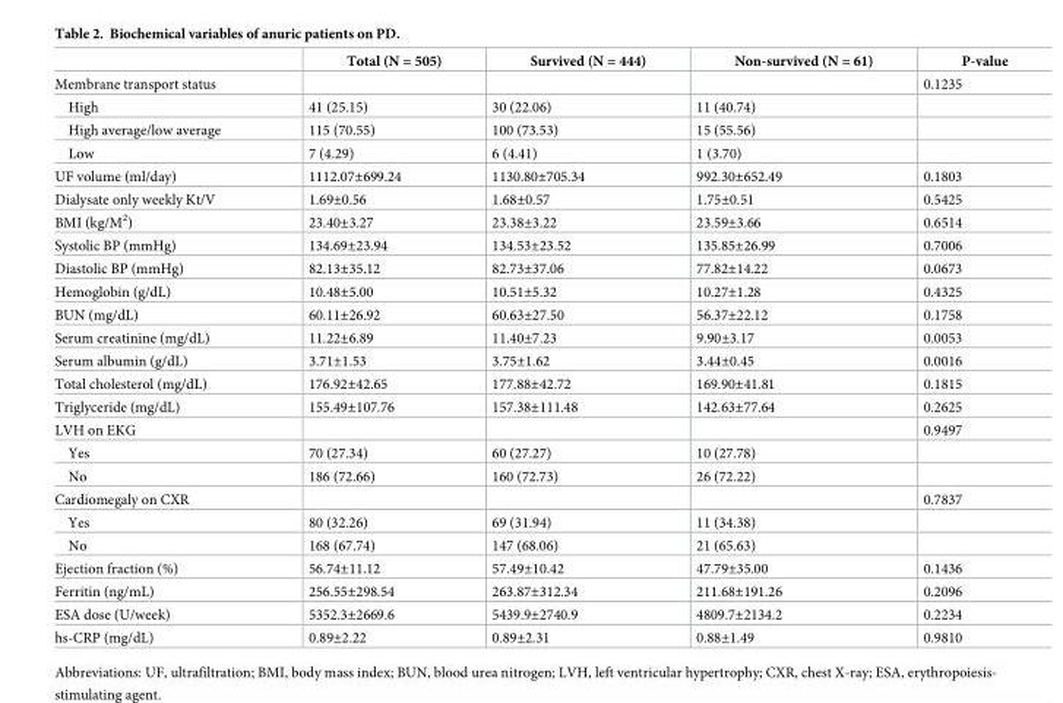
<table><thead><tr><td></td><td>Total (N = 505)</td><td>Survived (N = 444)</td><td>Non-survived (N = 61)</td><td>P-value</td></tr></thead><tbody><tr><td>Membrane transport status</td><td></td><td></td><td></td><td>0.1235</td></tr><tr><td>High</td><td>41 (25.15)</td><td>30 (22.06)</td><td>11 (40.74)</td><td></td></tr><tr><td>High average/low average</td><td>115 (70.55)</td><td>100 (73.53)</td><td>15 (55.56)</td><td></td></tr><tr><td>Low</td><td>7 (4.29)</td><td>6 (4.41)</td><td>1 (3.70)</td><td></td></tr><tr><td>UF volume (ml/day)</td><td>1112.07±699.24</td><td>1130.80±705.34</td><td>992.30±652.49</td><td>0.1803</td></tr><tr><td>Dialysate only weekly Kt/V</td><td>1.69±0.56</td><td>1.68±0.57</td><td>1.75±0.51</td><td>0.5425</td></tr><tr><td>BMI (kg/M<sup>2</sup>)</td><td>23.40±3.27</td><td>23.38±3.22</td><td>23.59±3.66</td><td>0.6514</td></tr><tr><td>Systolic BP (mmHg)</td><td>134.69±23.94</td><td>134.53±23.52</td><td>135.85±26.99</td><td>0.7006</td></tr><tr><td>Diastolic BP (mmHg)</td><td>82.13±35.12</td><td>82.73±37.06</td><td>77.82±14.22</td><td>0.0673</td></tr><tr><td>Hemoglobin (g/dL)</td><td>10.48±5.00</td><td>10.51±5.32</td><td>10.27±1.28</td><td>0.4325</td></tr><tr><td>BUN (mg/dL)</td><td>60.11±26.92</td><td>60.63±27.50</td><td>56.37±22.12</td><td>0.1758</td></tr><tr><td>Serum creatinine (mg/dL)</td><td>11.22±6.89</td><td>11.40±7.23</td><td>9.90±3.17</td><td>0.0053</td></tr><tr><td>Serum albumin (g/dL)</td><td>3.71±1.53</td><td>3.75±1.62</td><td>3.44±0.45</td><td>0.0016</td></tr><tr><td>Total cholesterol (mg/dL)</td><td>176.92±42.65</td><td>177.88±42.72</td><td>169.90±41.81</td><td>0.1815</td></tr><tr><td>Triglyceride (mg/dL)</td><td>155.49±107.76</td><td>157.38±111.48</td><td>142.63±77.64</td><td>0.2625</td></tr><tr><td>LVH on EKG</td><td></td><td></td><td></td><td>0.9497</td></tr><tr><td>Yes</td><td>70 (27.34)</td><td>60 (27.27)</td><td>10 (27.78)</td><td></td></tr><tr><td>No</td><td>186 (72.66)</td><td>160 (72.73)</td><td>26 (72.22)</td><td></td></tr><tr><td>Cardiomegaly on CXR</td><td></td><td></td><td></td><td>0.7837</td></tr><tr><td>Yes</td><td>80 (32.26)</td><td>69 (31.94)</td><td>11 (34.38)</td><td></td></tr><tr><td>No</td><td>168 (67.74)</td><td>147 (68.06)</td><td>21 (65.63)</td><td></td></tr><tr><td>Ejection fraction (%)</td><td>56.74±11.12</td><td>57.49±10.42</td><td>47.79±35.00</td><td>0.1436</td></tr><tr><td>Ferritin (ng/mL)</td><td>256.55±298.54</td><td>263.87±312.34</td><td>211.68±191.26</td><td>0.2096</td></tr><tr><td>ESA dose (U/week)</td><td>5352.3±2669.6</td><td>5439.9±2740.9</td><td>4809.7±2134.2</td><td>0.2234</td></tr><tr><td>hs-CRP (mg/dL)</td><td>0.89±2.22</td><td>0.89±2.31</td><td>0.88±1.49</td><td>0.9810</td></tr></tbody></table>